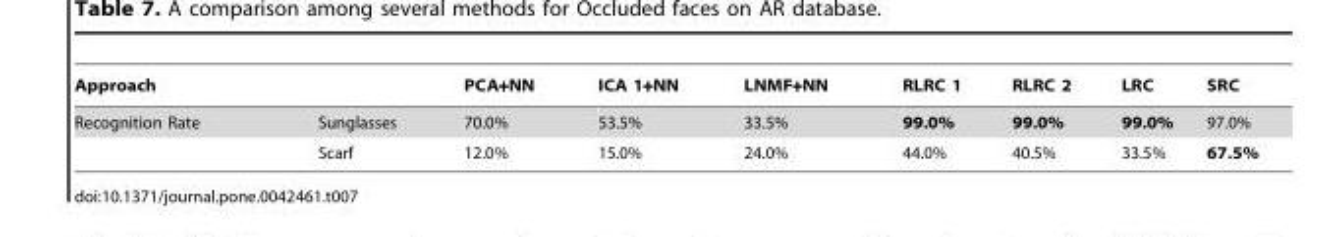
<table><thead><tr><td colspan="2">Approach</td><td rowspan="2">PCA+NN 70.0%</td><td rowspan="2">ICA 1+NN 53.5%</td><td rowspan="2">LNMF+NN 33.5%</td><td rowspan="2">RLRC 1 99.0%</td><td rowspan="2">RLRC 2 99.0%</td><td rowspan="2">LRC 99.0%</td><td rowspan="2">SRC 97.0%</td></tr><tr><td>Recognition Rate</td><td>Sunglasses</td></tr></thead><tbody><tr><td></td><td>Scarf</td><td>12.0%</td><td>15.0%</td><td>24.0%</td><td>44.0%</td><td>40.5%</td><td>33.5%</td><td>67.5%</td></tr></tbody></table>